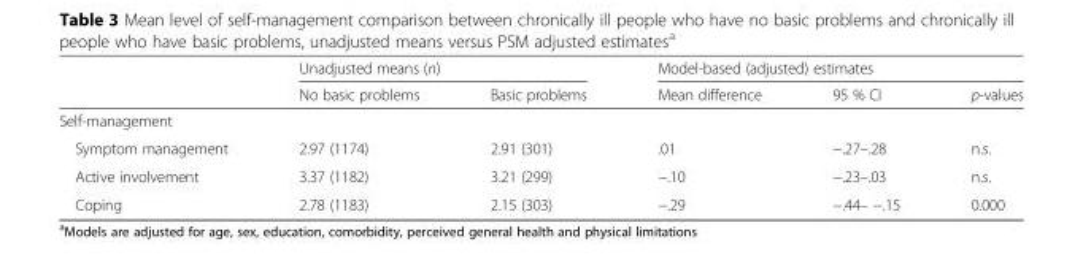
<table><thead><tr><td rowspan="2"></td><td colspan="2">Unadjusted means (n)</td><td colspan="3">Model-based (adjusted) estimates</td></tr><tr><td>No basic problems</td><td>Basic problems</td><td>Mean difference</td><td>95 % CI</td><td>p-values</td></tr></thead><tbody><tr><td colspan="6">Self-management</td></tr><tr><td>Symptom management</td><td>2.97 (1174)</td><td>2.91 (301)</td><td>.01</td><td>−.27–.28</td><td>n.s.</td></tr><tr><td>Active involvement</td><td>3.37 (1182)</td><td>3.21 (299)</td><td>−.10</td><td>−.23–.03</td><td>n.s.</td></tr><tr><td>Coping</td><td>2.78 (1183)</td><td>2.15 (303)</td><td>−.29</td><td>−.44– −.15</td><td>0.000</td></tr></tbody></table>